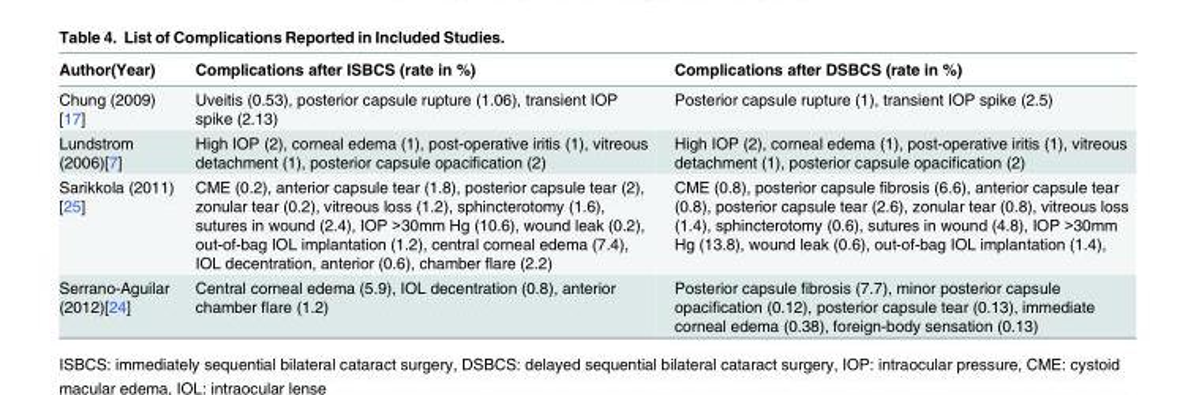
<table><thead><tr><td>Author(Year)</td><td>Complications after ISBCS (rate in %)</td><td>Complications after DSBCS (rate in %)</td></tr></thead><tbody><tr><td>Chung (2009) [17]</td><td>Uveitis (0.53), posterior capsule rupture (1.06), transient IOP spike (2.13)</td><td>Posterior capsule rupture (1), transient IOP spike (2.5)</td></tr><tr><td>Lundstrom (2006)[7]</td><td>High IOP (2), corneal edema (1), post-operative iritis (1), vitreous detachment (1), posterior capsule opacification (2)</td><td>High IOP (2), corneal edema (1), post-operative iritis (1), vitreous detachment (1), posterior capsule opacification (2)</td></tr><tr><td>Sarikkola (2011) [25]</td><td>CME (0.2), anterior capsule tear (1.8), posterior capsule tear (2), zonular tear (0.2), vitreous loss (1.2), sphincterotomy (1.6), sutures in wound (2.4), IOP &gt;30mm Hg (10.6), wound leak (0.2), out-of-bag IOL implantation (1.2), central corneal edema (7.4), IOL decentration, anterior (0.6), chamber flare (2.2)</td><td>CME (0.8), posterior capsule fibrosis (6.6), anterior capsule tear (0.8), posterior capsule tear (2.6), zonular tear (0.8), vitreous loss (1.4), sphincterotomy (0.6), sutures in wound (4.8), IOP &gt;30mm Hg (13.8), wound leak (0.6), out-of-bag IOL implantation (1.4),</td></tr><tr><td>Serrano-Aguilar (2012)[24]</td><td>Central corneal edema (5.9), IOL decentration (0.8), anterior chamber flare (1.2)</td><td>Posterior capsule fibrosis (7.7), minor posterior capsule opacification (0.12), posterior capsule tear (0.13), immediate corneal edema (0.38), foreign-body sensation (0.13)</td></tr></tbody></table>